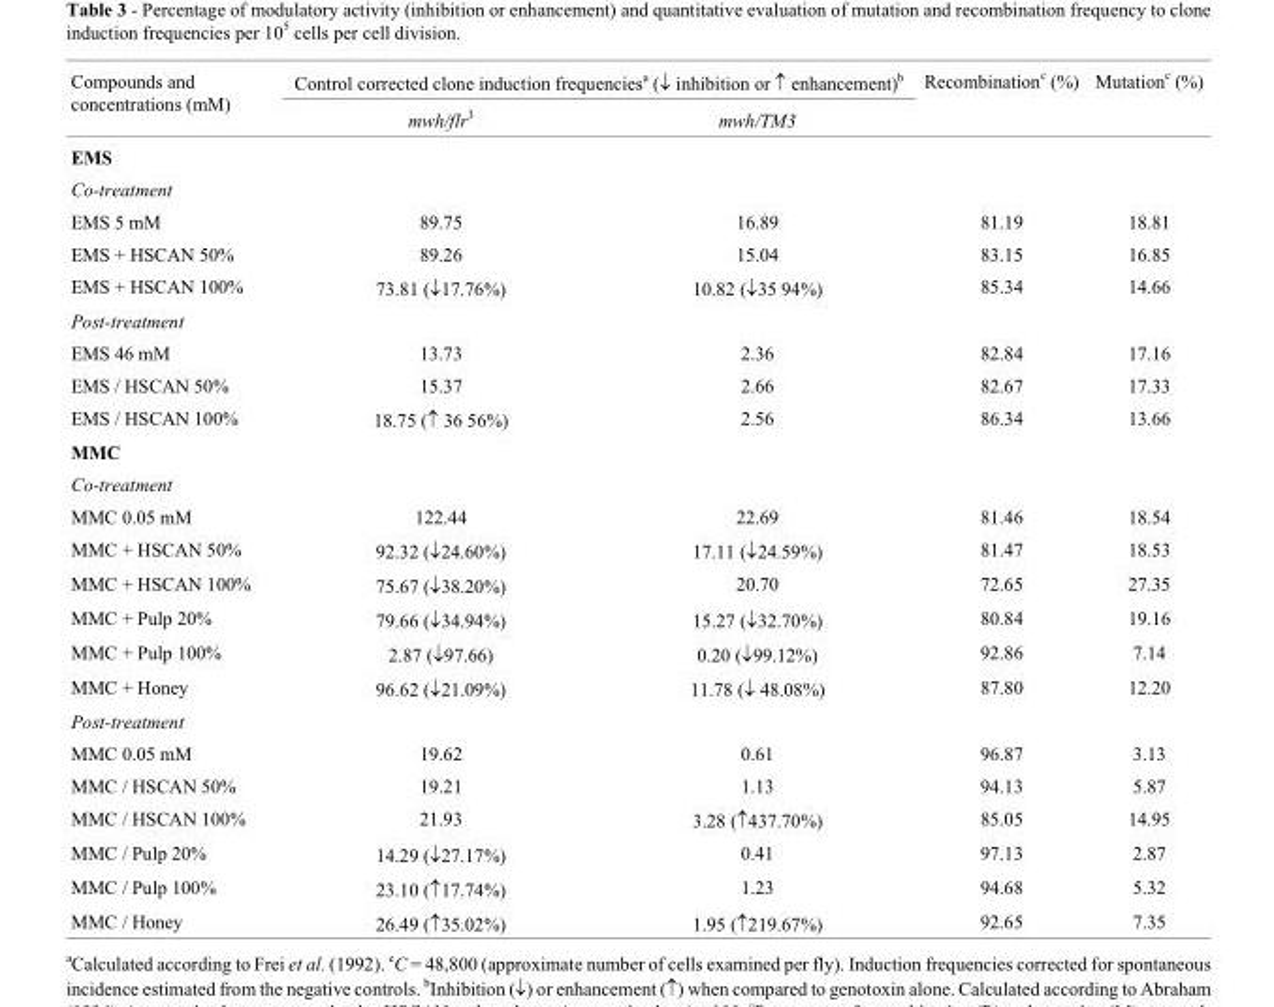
<table><thead><tr><td rowspan="2">Compounds and concentrations (mM)</td><td colspan="2">Control corrected clone induction frequencies<sup>a</sup> (↓ inhibition or ↑ enhancement)<sup>b</sup></td><td rowspan="2">Recombination<sup>c</sup> (%)</td><td rowspan="2">Mutation<sup>c</sup> (%)</td></tr><tr><td>mwh/flr<sup>3</sup></td><td>mwh/TM3</td></tr></thead><tbody><tr><td colspan="5">EMS</td></tr><tr><td colspan="5">Co-treatment</td></tr><tr><td>EMS 5 mM</td><td>89.75</td><td>16.89</td><td>81.19</td><td>18.81</td></tr><tr><td>EMS + HSCAN 50%</td><td>89.26</td><td>15.04</td><td>83.15</td><td>16.85</td></tr><tr><td>EMS + HSCAN 100%</td><td>73.81 (↓17.76%)</td><td>10.82 (↓35 94%)</td><td>85.34</td><td>14.66</td></tr><tr><td colspan="5">Post-treatment</td></tr><tr><td>EMS 46 mM</td><td>13.73</td><td>2.36</td><td>82.84</td><td>17.16</td></tr><tr><td>EMS / HSCAN 50%</td><td>15.37</td><td>2.66</td><td>82.67</td><td>17.33</td></tr><tr><td>EMS / HSCAN 100%</td><td>18.75 (↑ 36 56%)</td><td>2.56</td><td>86.34</td><td>13.66</td></tr><tr><td colspan="5">MMC</td></tr><tr><td colspan="5">Co-treatment</td></tr><tr><td>MMC 0.05 mM</td><td>122.44</td><td>22.69</td><td>81.46</td><td>18.54</td></tr><tr><td>MMC + HSCAN 50%</td><td>92.32 (↓24.60%)</td><td>17.11 (↓24.59%)</td><td>81.47</td><td>18.53</td></tr><tr><td>MMC + HSCAN 100%</td><td>75.67 (↓38.20%)</td><td>20.70</td><td>72.65</td><td>27.35</td></tr><tr><td>MMC + Pulp 20%</td><td>79.66 (↓34.94%)</td><td>15.27 (↓32.70%)</td><td>80.84</td><td>19.16</td></tr><tr><td>MMC + Pulp 100%</td><td>2.87 (↓97.66)</td><td>0.20 (↓99.12%)</td><td>92.86</td><td>7.14</td></tr><tr><td>MMC + Honey</td><td>96.62 (↓21.09%)</td><td>11.78 (↓ 48.08%)</td><td>87.80</td><td>12.20</td></tr><tr><td colspan="5">Post-treatment</td></tr><tr><td>MMC 0.05 mM</td><td>19.62</td><td>0.61</td><td>96.87</td><td>3.13</td></tr><tr><td>MMC / HSCAN 50%</td><td>19.21</td><td>1.13</td><td>94.13</td><td>5.87</td></tr><tr><td>MMC / HSCAN 100%</td><td>21.93</td><td>3.28 (↑437.70%)</td><td>85.05</td><td>14.95</td></tr><tr><td>MMC / Pulp 20%</td><td>14.29 (↓27.17%)</td><td>0.41</td><td>97.13</td><td>2.87</td></tr><tr><td>MMC / Pulp 100%</td><td>23.10 (↑17.74%)</td><td>1.23</td><td>94.68</td><td>5.32</td></tr><tr><td>MMC / Honey</td><td>26.49 (↑35.02%)</td><td>1.95 (↑219.67%)</td><td>92.65</td><td>7.35</td></tr></tbody></table>